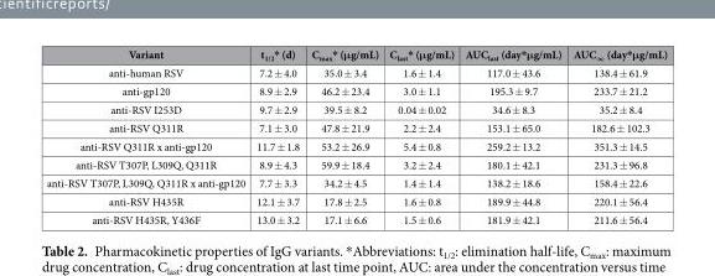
<table><thead><tr><td>Variant</td><td>t<sub>1/2</sub>* (d)</td><td>C<sub>max</sub>* (μg/mL)</td><td>C<sub>last</sub>* (μg/mL)</td><td>AUC<sub>last</sub> (day*μg/mL)</td><td>AUC<sub>∞</sub> (day*μg/mL)</td></tr></thead><tbody><tr><td>anti-human RSV</td><td>7.2 ± 4.0</td><td>35.0 ± 3.4</td><td>1.6 ± 1.4</td><td>117.0 ± 43.6</td><td>138.4 ± 61.9</td></tr><tr><td>anti-gp120</td><td>8.9 ± 2.9</td><td>46.2 ± 23.4</td><td>3.0 ± 1.1</td><td>195.3 ± 9.7</td><td>233.7 ± 21.2</td></tr><tr><td>anti-RSV I253D</td><td>9.7 ± 2.9</td><td>39.5 ± 8.2</td><td>0.04 ± 0.02</td><td>34.6 ± 8.3</td><td>35.2 ± 8.4</td></tr><tr><td>anti-RSV Q311R</td><td>7.1 ± 3.0</td><td>47.8 ± 21.9</td><td>2.2 ± 2.4</td><td>153.1 ± 65.0</td><td>182.6 ± 102.3</td></tr><tr><td>anti-RSV Q311R x anti-gp120</td><td>11.7 ± 1.8</td><td>53.2 ± 26.9</td><td>5.4 ± 0.8</td><td>259.2 ± 13.2</td><td>351.3 ± 14.5</td></tr><tr><td>anti-RSV T307P, L309Q, Q311R</td><td>8.9 ± 4.3</td><td>59.9 ± 18.4</td><td>3.2 ± 2.4</td><td>180.1 ± 42.1</td><td>231.3 ± 96.8</td></tr><tr><td>anti-RSV T307P, L309Q, Q311R x anti-gp120</td><td>7.7 ± 3.3</td><td>34.2 ± 4.5</td><td>1.4 ± 1.4</td><td>138.2 ± 18.6</td><td>158.4 ± 22.6</td></tr><tr><td>anti-RSV H435R</td><td>12.1 ± 3.7</td><td>17.8 ± 2.5</td><td>1.6 ± 0.8</td><td>189.9 ± 44.8</td><td>220.1 ± 56.4</td></tr><tr><td>anti-RSV H435R, Y436F</td><td>13.0 ± 3.2</td><td>17.1 ± 6.6</td><td>1.5 ± 0.6</td><td>181.9 ± 42.1</td><td>211.6 ± 56.4</td></tr></tbody></table>